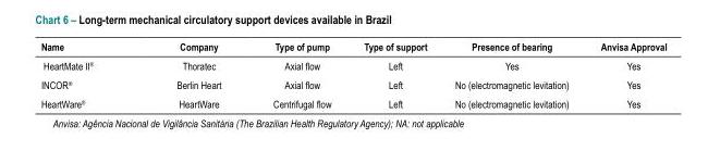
<table><thead><tr><td>Name</td><td>Company</td><td>Type of pump</td><td>Type of support</td><td>Presence of bearing</td><td>Anvisa Approval</td></tr></thead><tbody><tr><td>HeartMate II<sup>®</sup></td><td>Thoratec</td><td>Axial flow</td><td>Left</td><td>Yes</td><td>Yes</td></tr><tr><td>INCOR<sup>®</sup></td><td>Berlin Heart</td><td>Axial flow</td><td>Left</td><td>No (electromagnetic levitation)</td><td>Yes</td></tr><tr><td>HeartWare<sup>®</sup></td><td>HeartWare</td><td>Centrifugal flow</td><td>Left</td><td>No (electromagnetic levitation)</td><td>Yes</td></tr></tbody></table>